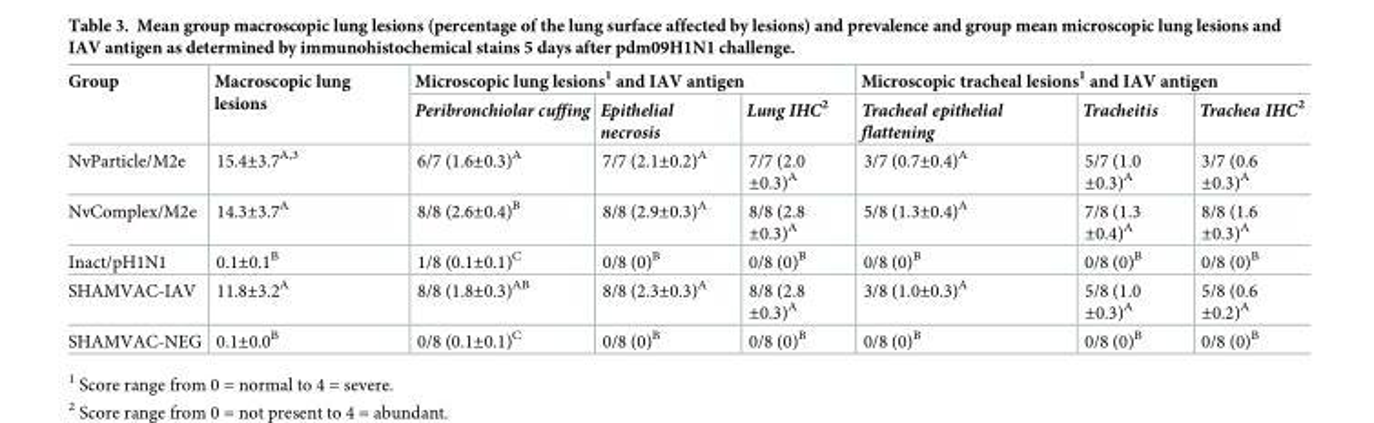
<table><thead><tr><td rowspan="2">Group</td><td rowspan="2">Macroscopic lung lesions</td><td colspan="3">Microscopic lung lesions<sup>1</sup> and IAV antigen</td><td colspan="3">Microscopic tracheal lesions<sup>1</sup> and IAV antigen</td></tr><tr><td>Peribronchiolar cuffing</td><td>Epithelial necrosis</td><td>Lung IHC<sup>2</sup></td><td>Tracheal epithelial flattening</td><td>Tracheitis</td><td>Trachea IHC<sup>2</sup></td></tr></thead><tbody><tr><td>NvParticle/M2e</td><td>15.4±3.7<sup>A,3</sup></td><td>6/7 (1.6±0.3)<sup>A</sup></td><td>7/7 (2.1±0.2)<sup>A</sup></td><td>7/7 (2.0 ±0.3)<sup>A</sup></td><td>3/7 (0.7±0.4)<sup>A</sup></td><td>5/7 (1.0 ±0.3)<sup>A</sup></td><td>3/7 (0.6 ±0.3)<sup>A</sup></td></tr><tr><td>NvComplex/M2e</td><td>14.3±3.7<sup>A</sup></td><td>8/8 (2.6±0.4)<sup>B</sup></td><td>8/8 (2.9±0.3)<sup>A</sup></td><td>8/8 (2.8 ±0.3)<sup>A</sup></td><td>5/8 (1.3±0.4)<sup>A</sup></td><td>7/8 (1.3 ±0.4)<sup>A</sup></td><td>8/8 (1.6 ±0.3)<sup>A</sup></td></tr><tr><td>Inact/pH1N1</td><td>0.1±0.1<sup>B</sup></td><td>1/8 (0.1±0.1)<sup>C</sup></td><td>0/8 (0)<sup>B</sup></td><td>0/8 (0)<sup>B</sup></td><td>0/8 (0)<sup>B</sup></td><td>0/8 (0)<sup>B</sup></td><td>0/8 (0)<sup>B</sup></td></tr><tr><td>SHAMVAC-IAV</td><td>11.8±3.2<sup>A</sup></td><td>8/8 (1.8±0.3)<sup>AB</sup></td><td>8/8 (2.3±0.3)<sup>A</sup></td><td>8/8 (2.8 ±0.3)<sup>A</sup></td><td>3/8 (1.0±0.3)<sup>A</sup></td><td>5/8 (1.0 ±0.3)<sup>A</sup></td><td>5/8 (0.6 ±0.2)<sup>A</sup></td></tr><tr><td>SHAMVAC-NEG</td><td>0.1±0.0<sup>B</sup></td><td>0/8 (0.1±0.1)<sup>C</sup></td><td>0/8 (0)<sup>B</sup></td><td>0/8 (0)<sup>B</sup></td><td>0/8 (0)<sup>B</sup></td><td>0/8 (0)<sup>B</sup></td><td>0/8 (0)<sup>B</sup></td></tr></tbody></table>